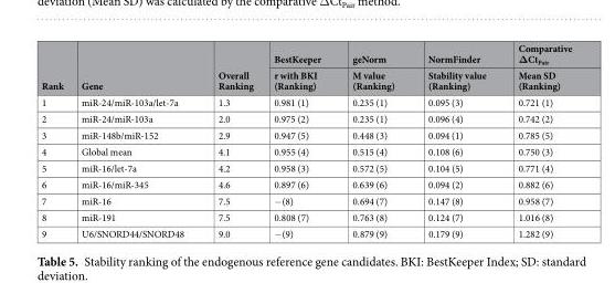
<table><thead><tr><td rowspan="2">Rank</td><td rowspan="2">Gene</td><td rowspan="2">Overall Ranking</td><td rowspan="2">BestKeeper r with BKI (Ranking)</td><td rowspan="2">geNorm M value (Ranking)</td><td rowspan="2">NormFinder Stability value (Ranking)</td><td rowspan="2">Comparative ΔCt<sub>Pair</sub> Mean SD (Ranking)</td></tr><tr></tr></thead><tbody><tr><td>1</td><td>miR-24/miR-103a/let-7a</td><td>1.3</td><td>0.981 (1)</td><td>0.235 (1)</td><td>0.095 (3)</td><td>0.721 (1)</td></tr><tr><td>2</td><td>miR-24/miR-103a</td><td>2.0</td><td>0.975 (2)</td><td>0.235 (1)</td><td>0.096 (4)</td><td>0.742 (2)</td></tr><tr><td>3</td><td>miR-148b/miR-152</td><td>2.9</td><td>0.947 (5)</td><td>0.448 (3)</td><td>0.094 (1)</td><td>0.785 (5)</td></tr><tr><td>4</td><td>Global mean</td><td>4.1</td><td>0.955 (4)</td><td>0.515 (4)</td><td>0.108 (6)</td><td>0.750 (3)</td></tr><tr><td>5</td><td>miR-16/let-7a</td><td>4.2</td><td>0.958 (3)</td><td>0.572 (5)</td><td>0.104 (5)</td><td>0.771 (4)</td></tr><tr><td>6</td><td>miR-16/miR-345</td><td>4.6</td><td>0.897 (6)</td><td>0.639 (6)</td><td>0.094 (2)</td><td>0.882 (6)</td></tr><tr><td>7</td><td>miR-16</td><td>7.5</td><td>−(8)</td><td>0.694 (7)</td><td>0.147 (8)</td><td>0.958 (7)</td></tr><tr><td>8</td><td>miR-191</td><td>7.5</td><td>0.808 (7)</td><td>0.763 (8)</td><td>0.124 (7)</td><td>1.016 (8)</td></tr><tr><td>9</td><td>U6/SNORD44/SNORD48</td><td>9.0</td><td>−(9)</td><td>0.879 (9)</td><td>0.179 (9)</td><td>1.282 (9)</td></tr></tbody></table>